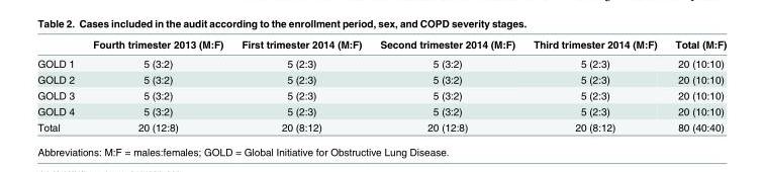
<table><thead><tr><td></td><td>Fourth trimester 2013 (M:F)</td><td>First trimester 2014 (M:F)</td><td>Second trimester 2014 (M:F)</td><td>Third trimester 2014 (M:F)</td><td>Total (M:F)</td></tr></thead><tbody><tr><td>GOLD 1</td><td>5 (3:2)</td><td>5 (2:3)</td><td>5 (3:2)</td><td>5 (2:3)</td><td>20 (10:10)</td></tr><tr><td>GOLD 2</td><td>5 (3:2)</td><td>5 (2:3)</td><td>5 (3:2)</td><td>5 (2:3)</td><td>20 (10:10)</td></tr><tr><td>GOLD 3</td><td>5 (3:2)</td><td>5 (2:3)</td><td>5 (3:2)</td><td>5 (2:3)</td><td>20 (10:10)</td></tr><tr><td>GOLD 4</td><td>5 (3:2)</td><td>5 (2:3)</td><td>5 (3:2)</td><td>5 (2:3)</td><td>20 (10:10)</td></tr><tr><td>Total</td><td>20 (12:8)</td><td>20 (8:12)</td><td>20 (12:8)</td><td>20 (8:12)</td><td>80 (40:40)</td></tr></tbody></table>